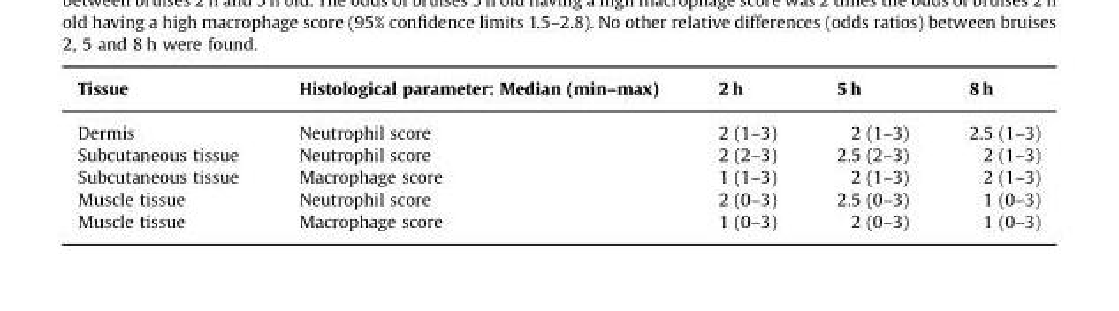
<table><thead><tr><td>Tissue</td><td>Histological parameter: Median (min–max)</td><td>2 h</td><td>5 h</td><td>8 h</td></tr></thead><tbody><tr><td>Dermis</td><td>Neutrophil score</td><td>2 (1–3)</td><td>2 (1–3)</td><td>2.5 (1–3)</td></tr><tr><td>Subcutaneous tissue</td><td>Neutrophil score</td><td>2 (2–3)</td><td>2.5 (2–3)</td><td>2 (1–3)</td></tr><tr><td>Subcutaneous tissue</td><td>Macrophage score</td><td>1 (1–3)</td><td>2 (1–3)</td><td>2 (1–3)</td></tr><tr><td>Muscle tissue</td><td>Neutrophil score</td><td>2 (0–3)</td><td>2.5 (0–3)</td><td>1 (0–3)</td></tr><tr><td>Muscle tissue</td><td>Macrophage score</td><td>1 (0–3)</td><td>2 (0–3)</td><td>1 (0–3)</td></tr></tbody></table>